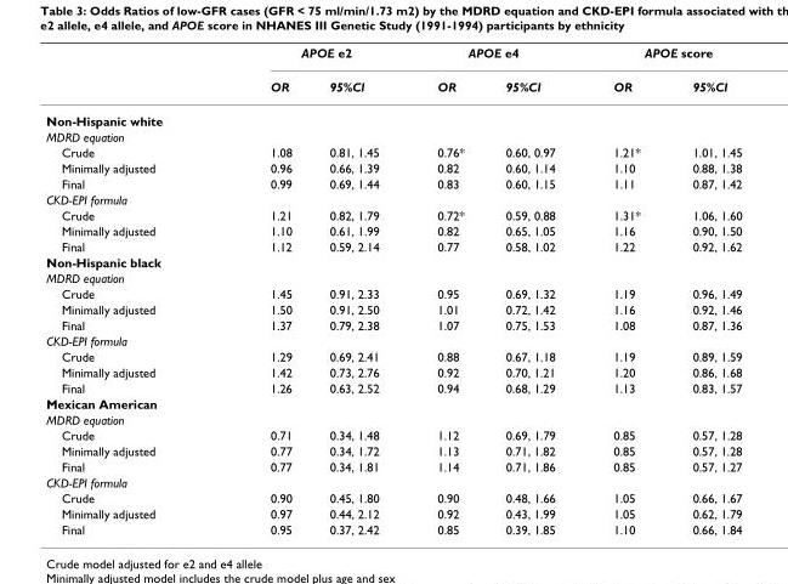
<table><thead><tr><td rowspan="2"></td><td colspan="2">APOE e2</td><td colspan="2">APOE e4</td><td colspan="2">APOE score</td></tr><tr><td>OR</td><td>95%CI</td><td>OR</td><td>95%CI</td><td>OR</td><td>95%CI</td></tr></thead><tbody><tr><td colspan="7">Non-Hispanic white</td></tr><tr><td colspan="7">MDRD equation</td></tr><tr><td>Crude</td><td>1.08</td><td>0.81, 1.45</td><td>0.76*</td><td>0.60, 0.97</td><td>1.21*</td><td>1.01, 1.45</td></tr><tr><td>Minimally adjusted</td><td>0.96</td><td>0.66, 1.39</td><td>0.82</td><td>0.60, 1.14</td><td>1.10</td><td>0.88, 1.38</td></tr><tr><td>Final</td><td>0.99</td><td>0.69, 1.44</td><td>0.83</td><td>0.60, 1.15</td><td>1.11</td><td>0.87, 1.42</td></tr><tr><td colspan="7">CKD-EPI formula</td></tr><tr><td>Crude</td><td>1.21</td><td>0.82, 1.79</td><td>0.72*</td><td>0.59, 0.88</td><td>1.31*</td><td>1.06, 1.60</td></tr><tr><td>Minimally adjusted</td><td>1.10</td><td>0.61, 1.99</td><td>0.82</td><td>0.65, 1.05</td><td>1.16</td><td>0.90, 1.50</td></tr><tr><td>Final</td><td>1.12</td><td>0.59, 2.14</td><td>0.77</td><td>0.58, 1.02</td><td>1.22</td><td>0.92, 1.62</td></tr><tr><td colspan="7">Non-Hispanic black</td></tr><tr><td colspan="7">MDRD equation</td></tr><tr><td>Crude</td><td>1.45</td><td>0.91, 2.33</td><td>0.95</td><td>0.69, 1.32</td><td>1.19</td><td>0.96, 1.49</td></tr><tr><td>Minimally adjusted</td><td>1.50</td><td>0.91, 2.50</td><td>1.01</td><td>0.72, 1.42</td><td>1.16</td><td>0.92, 1.46</td></tr><tr><td>Final</td><td>1.37</td><td>0.79, 2.38</td><td>1.07</td><td>0.75, 1.53</td><td>1.08</td><td>0.87, 1.36</td></tr><tr><td colspan="7">CKD-EPI formula</td></tr><tr><td>Crude</td><td>1.29</td><td>0.69, 2.41</td><td>0.88</td><td>0.67, 1.18</td><td>1.19</td><td>0.89, 1.59</td></tr><tr><td>Minimally adjusted</td><td>1.42</td><td>0.73, 2.76</td><td>0.92</td><td>0.70, 1.21</td><td>1.20</td><td>0.86, 1.68</td></tr><tr><td>Final</td><td>1.26</td><td>0.63, 2.52</td><td>0.94</td><td>0.68, 1.29</td><td>1.13</td><td>0.83, 1.57</td></tr><tr><td colspan="7">Mexican American</td></tr><tr><td colspan="7">MDRD equation</td></tr><tr><td>Crude</td><td>0.71</td><td>0.34, 1.48</td><td>1.12</td><td>0.69, 1.79</td><td>0.85</td><td>0.57, 1.28</td></tr><tr><td>Minimally adjusted</td><td>0.77</td><td>0.34, 1.72</td><td>1.13</td><td>0.71, 1.82</td><td>0.85</td><td>0.57, 1.28</td></tr><tr><td>Final</td><td>0.77</td><td>0.34, 1.81</td><td>1.14</td><td>0.71, 1.86</td><td>0.85</td><td>0.57, 1.27</td></tr><tr><td colspan="7">CKD-EPI formula</td></tr><tr><td>Crude</td><td>0.90</td><td>0.45, 1.80</td><td>0.90</td><td>0.48, 1.66</td><td>1.05</td><td>0.66, 1.67</td></tr><tr><td>Minimally adjusted</td><td>0.97</td><td>0.44, 2.12</td><td>0.92</td><td>0.43, 1.99</td><td>1.05</td><td>0.62, 1.79</td></tr><tr><td>Final</td><td>0.95</td><td>0.37, 2.42</td><td>0.85</td><td>0.39, 1.85</td><td>1.10</td><td>0.66, 1.84</td></tr></tbody></table>